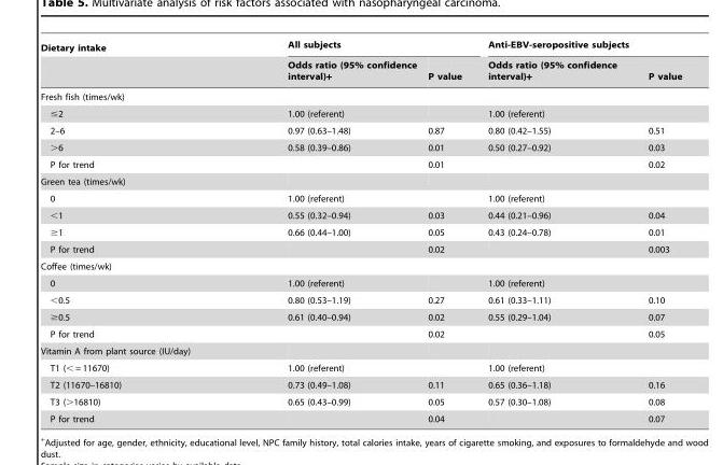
<table><thead><tr><td rowspan="2">Dietary intake</td><td colspan="2">All subjects</td><td colspan="2">Anti-EBV-seropositive subjects</td></tr><tr><td>Odds ratio (95% confidence interval)+</td><td>P value</td><td>Odds ratio (95% confidence interval)+</td><td>P value</td></tr></thead><tbody><tr><td colspan="5">Fresh fish (times/wk)</td></tr><tr><td>≤2</td><td>1.00 (referent)</td><td></td><td>1.00 (referent)</td><td></td></tr><tr><td>2–6</td><td>0.97 (0.63–1.48)</td><td>0.87</td><td>0.80 (0.42–1.55)</td><td>0.51</td></tr><tr><td>&gt;6</td><td>0.58 (0.39–0.86)</td><td>0.01</td><td>0.50 (0.27–0.92)</td><td>0.03</td></tr><tr><td>P for trend</td><td></td><td>0.01</td><td></td><td>0.02</td></tr><tr><td colspan="5">Green tea (times/wk)</td></tr><tr><td>0</td><td>1.00 (referent)</td><td></td><td>1.00 (referent)</td><td></td></tr><tr><td>&lt;1</td><td>0.55 (0.32–0.94)</td><td>0.03</td><td>0.44 (0.21–0.96)</td><td>0.04</td></tr><tr><td>≥1</td><td>0.66 (0.44–1.00)</td><td>0.05</td><td>0.43 (0.24–0.78)</td><td>0.01</td></tr><tr><td>P for trend</td><td></td><td>0.02</td><td></td><td>0.003</td></tr><tr><td colspan="5">Coffee (times/wk)</td></tr><tr><td>0</td><td>1.00 (referent)</td><td></td><td>1.00 (referent)</td><td></td></tr><tr><td>&lt;0.5</td><td>0.80 (0.53–1.19)</td><td>0.27</td><td>0.61 (0.33–1.11)</td><td>0.10</td></tr><tr><td>≥0.5</td><td>0.61 (0.40–0.94)</td><td>0.02</td><td>0.55 (0.29–1.04)</td><td>0.07</td></tr><tr><td>P for trend</td><td></td><td>0.02</td><td></td><td>0.05</td></tr><tr><td colspan="5">Vitamin A from plant source (IU/day)</td></tr><tr><td>T1 (&lt; = 11670)</td><td>1.00 (referent)</td><td></td><td>1.00 (referent)</td><td></td></tr><tr><td>T2 (11670–16810)</td><td>0.73 (0.49–1.08)</td><td>0.11</td><td>0.65 (0.36–1.18)</td><td>0.16</td></tr><tr><td>T3 (&gt;16810)</td><td>0.65 (0.43–0.99)</td><td>0.05</td><td>0.57 (0.30–1.08)</td><td>0.08</td></tr><tr><td>P for trend</td><td></td><td>0.04</td><td></td><td>0.07</td></tr></tbody></table>